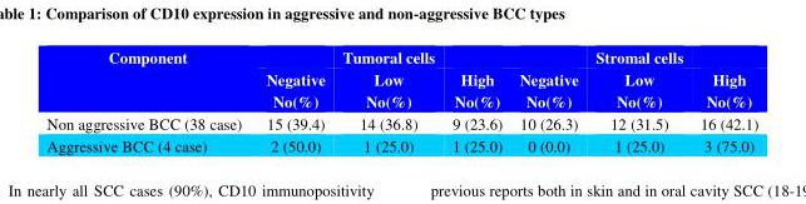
<table><thead><tr><td rowspan="2">High No(%)</td><td rowspan="2">Stromal cells Low No(%)</td><td rowspan="2">Negative No(%)</td><td rowspan="2">High No(%)</td><td rowspan="2">Tumoral cells Low No(%)</td><td rowspan="2">Negative No(%)</td><td rowspan="2">Component</td></tr><tr></tr></thead><tbody><tr><td>16 (42.1)</td><td>12 (31.5)</td><td>10 (26.3)</td><td>9 (23.6)</td><td>14 (36.8)</td><td>15 (39.4)</td><td>Non aggressive BCC (38 case)</td></tr><tr><td>3 (75.0)</td><td>1 (25.0)</td><td>0 (0.0)</td><td>1 (25.0)</td><td>1 (25.0)</td><td>2 (50.0)</td><td>Aggressive BCC (4 case)</td></tr></tbody></table>